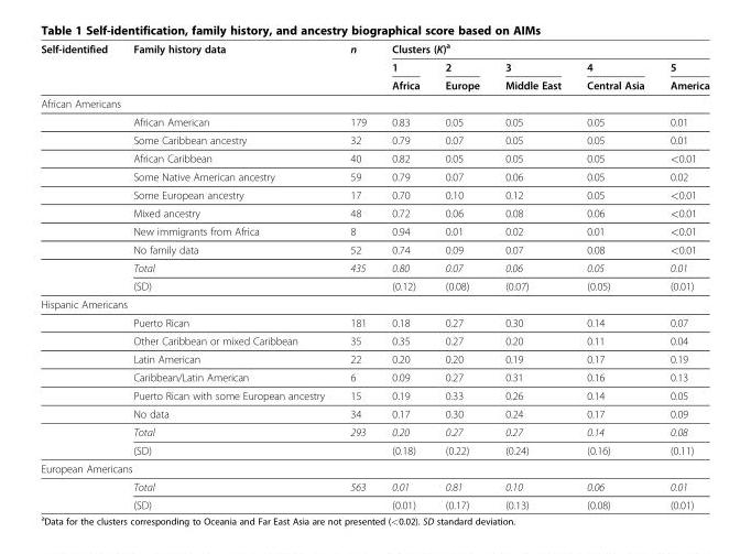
<table><thead><tr><td rowspan="3">Self-identified</td><td rowspan="3">Family history data</td><td rowspan="3">n</td><td colspan="5">Clusters (K)<sup>a</sup></td></tr><tr><td rowspan="2">1 Africa</td><td rowspan="2">2 Europe</td><td rowspan="2">3 Middle East</td><td rowspan="2">4 Central Asia</td><td rowspan="2">5 America</td></tr><tr></tr></thead><tbody><tr><td colspan="8">African Americans</td></tr><tr><td></td><td>African American</td><td>179</td><td>0.83</td><td>0.05</td><td>0.05</td><td>0.05</td><td>0.01</td></tr><tr><td></td><td>Some Caribbean ancestry</td><td>32</td><td>0.79</td><td>0.07</td><td>0.05</td><td>0.05</td><td>0.01</td></tr><tr><td></td><td>African Caribbean</td><td>40</td><td>0.82</td><td>0.05</td><td>0.05</td><td>0.05</td><td>&lt;0.01</td></tr><tr><td></td><td>Some Native American ancestry</td><td>59</td><td>0.79</td><td>0.07</td><td>0.06</td><td>0.05</td><td>0.02</td></tr><tr><td></td><td>Some European ancestry</td><td>17</td><td>0.70</td><td>0.10</td><td>0.12</td><td>0.05</td><td>&lt;0.01</td></tr><tr><td></td><td>Mixed ancestry</td><td>48</td><td>0.72</td><td>0.06</td><td>0.08</td><td>0.06</td><td>&lt;0.01</td></tr><tr><td></td><td>New immigrants from Africa</td><td>8</td><td>0.94</td><td>0.01</td><td>0.02</td><td>0.01</td><td>&lt;0.01</td></tr><tr><td></td><td>No family data</td><td>52</td><td>0.74</td><td>0.09</td><td>0.07</td><td>0.08</td><td>&lt;0.01</td></tr><tr><td rowspan="2"></td><td>Total</td><td>435</td><td>0.80</td><td>0.07</td><td>0.06</td><td>0.05</td><td>0.01</td></tr><tr><td>(SD)</td><td></td><td>(0.12)</td><td>(0.08)</td><td>(0.07)</td><td>(0.05)</td><td>(0.01)</td></tr><tr><td colspan="8">Hispanic Americans</td></tr><tr><td></td><td>Puerto Rican</td><td>181</td><td>0.18</td><td>0.27</td><td>0.30</td><td>0.14</td><td>0.07</td></tr><tr><td></td><td>Other Caribbean or mixed Caribbean</td><td>35</td><td>0.35</td><td>0.27</td><td>0.20</td><td>0.11</td><td>0.04</td></tr><tr><td></td><td>Latin American</td><td>22</td><td>0.20</td><td>0.20</td><td>0.19</td><td>0.17</td><td>0.19</td></tr><tr><td></td><td>Caribbean/Latin American</td><td>6</td><td>0.09</td><td>0.27</td><td>0.31</td><td>0.16</td><td>0.13</td></tr><tr><td></td><td>Puerto Rican with some European ancestry</td><td>15</td><td>0.19</td><td>0.33</td><td>0.26</td><td>0.14</td><td>0.05</td></tr><tr><td></td><td>No data</td><td>34</td><td>0.17</td><td>0.30</td><td>0.24</td><td>0.17</td><td>0.09</td></tr><tr><td rowspan="2"></td><td>Total</td><td>293</td><td>0.20</td><td>0.27</td><td>0.27</td><td>0.14</td><td>0.08</td></tr><tr><td>(SD)</td><td></td><td>(0.18)</td><td>(0.22)</td><td>(0.24)</td><td>(0.16)</td><td>(0.11)</td></tr><tr><td colspan="8">European Americans</td></tr><tr><td rowspan="2"></td><td>Total</td><td>563</td><td>0.01</td><td>0.81</td><td>0.10</td><td>0.06</td><td>0.01</td></tr><tr><td>(SD)</td><td></td><td>(0.01)</td><td>(0.17)</td><td>(0.13)</td><td>(0.08)</td><td>(0.01)</td></tr></tbody></table>